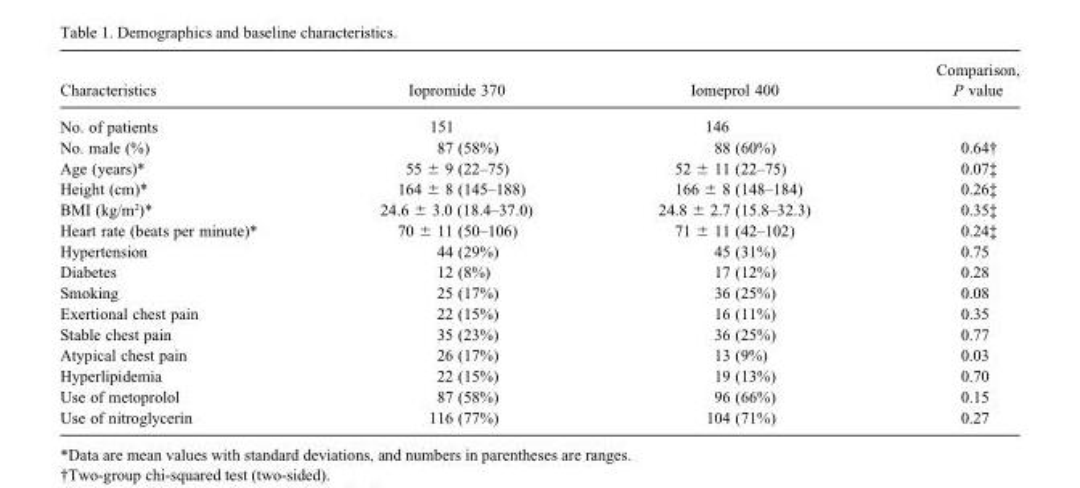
<table><thead><tr><td>Characteristics</td><td>Iopromide 370</td><td>Iomeprol 400</td><td>Comparison, P value</td></tr></thead><tbody><tr><td>No. of patients</td><td>151</td><td>146</td><td></td></tr><tr><td>No. male (%)</td><td>87 (58%)</td><td>88 (60%)</td><td>0.64 †</td></tr><tr><td>Age (years) *</td><td>55 ± 9 (22 – 75)</td><td>52 ± 11 (22 – 75)</td><td>0.07 ‡</td></tr><tr><td>Height (cm) *</td><td>164 ± 8 (145 – 188)</td><td>166 ± 8 (148 – 184)</td><td>0.26 ‡</td></tr><tr><td>BMI (kg/m <sup>2</sup> ) *</td><td>24.6 ± 3.0 (18.4 – 37.0)</td><td>24.8 ± 2.7 (15.8 – 32.3)</td><td>0.35 ‡</td></tr><tr><td>Heart rate (beats per minute) *</td><td>70 ± 11 (50 – 106)</td><td>71 ± 11 (42 – 102)</td><td>0.24 ‡</td></tr><tr><td>Hypertension</td><td>44 (29%)</td><td>45 (31%)</td><td>0.75</td></tr><tr><td>Diabetes</td><td>12 (8%)</td><td>17 (12%)</td><td>0.28</td></tr><tr><td>Smoking</td><td>25 (17%)</td><td>36 (25%)</td><td>0.08</td></tr><tr><td>Exertional chest pain</td><td>22 (15%)</td><td>16 (11%)</td><td>0.35</td></tr><tr><td>Stable chest pain</td><td>35 (23%)</td><td>36 (25%)</td><td>0.77</td></tr><tr><td>Atypical chest pain</td><td>26 (17%)</td><td>13 (9%)</td><td>0.03</td></tr><tr><td>Hyperlipidemia</td><td>22 (15%)</td><td>19 (13%)</td><td>0.70</td></tr><tr><td>Use of metoprolol</td><td>87 (58%)</td><td>96 (66%)</td><td>0.15</td></tr><tr><td>Use of nitroglycerin</td><td>116 (77%)</td><td>104 (71%)</td><td>0.27</td></tr></tbody></table>